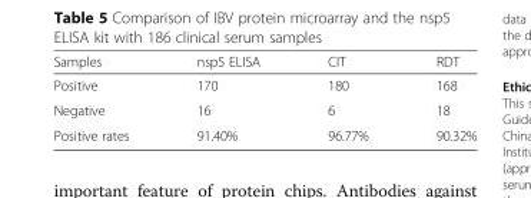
<table><thead><tr><td>Samples</td><td>nsp5 ELISA</td><td>CIT</td><td>RDT</td></tr></thead><tbody><tr><td>Positive</td><td>170</td><td>180</td><td>168</td></tr><tr><td>Negative</td><td>16</td><td>6</td><td>18</td></tr><tr><td>Positive rates</td><td>91.40%</td><td>96.77%</td><td>90.32%</td></tr></tbody></table>